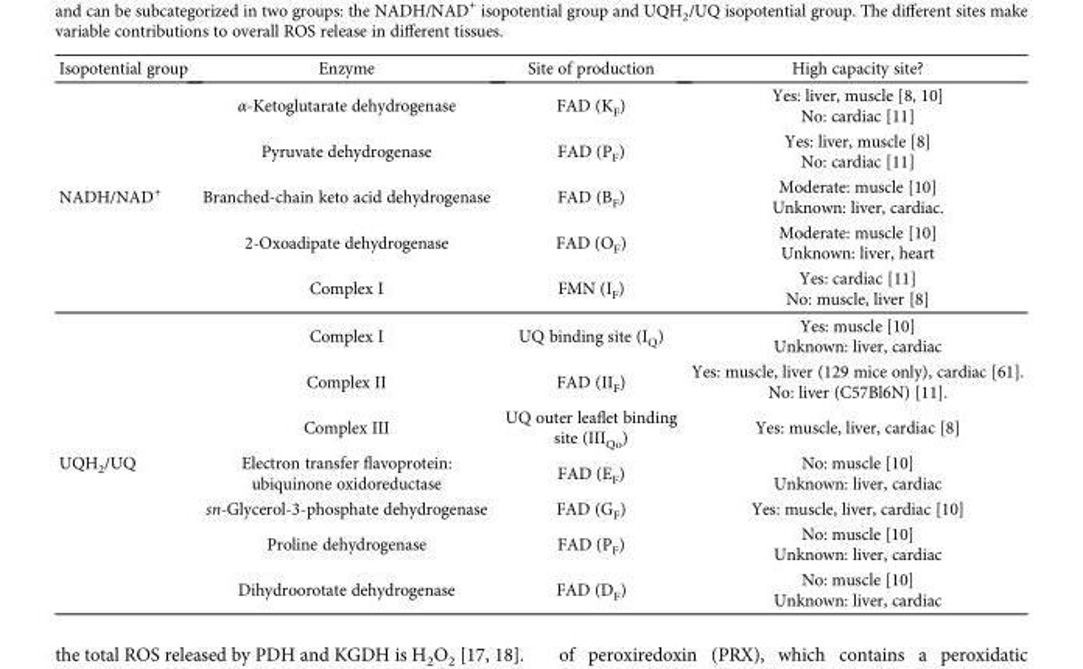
<table><thead><tr><td>Isopotential group</td><td>Enzyme</td><td>Site of production</td><td>High capacity site?</td></tr></thead><tbody><tr><td rowspan="5">NADH/NAD<sup>+</sup></td><td>α-Ketoglutarate dehydrogenase</td><td>FAD (K<sub>F</sub>)</td><td>Yes: liver, muscle [8, 10] No: cardiac [11]</td></tr><tr><td>Pyruvate dehydrogenase</td><td>FAD (P<sub>F</sub>)</td><td>Yes: liver, muscle [8] No: cardiac [11]</td></tr><tr><td>Branched-chain keto acid dehydrogenase</td><td>FAD (B<sub>F</sub>)</td><td>Moderate: muscle [10] Unknown: liver, cardiac.</td></tr><tr><td>2-Oxoadipate dehydrogenase</td><td>FAD (O<sub>F</sub>)</td><td>Moderate: muscle [10] Unknown: liver, heart</td></tr><tr><td>Complex I</td><td>FMN (I<sub>F</sub>)</td><td>Yes: cardiac [11] No: muscle, liver [8]</td></tr><tr><td rowspan="7">UQH<sub>2</sub>/UQ</td><td>Complex I</td><td>UQ binding site (I<sub>Q</sub>)</td><td>Yes: muscle [10] Unknown: liver, cardiac</td></tr><tr><td>Complex II</td><td>FAD (II<sub>F</sub>)</td><td>Yes: muscle, liver (129 mice only), cardiac [61]. No: liver (C57Bl6N) [11].</td></tr><tr><td>Complex III</td><td>UQ outer leaflet binding site (III<sub>Qo</sub>)</td><td>Yes: muscle, liver, cardiac [8]</td></tr><tr><td>Electron transfer flavoprotein: ubiquinone oxidoreductase</td><td>FAD (E<sub>F</sub>)</td><td>No: muscle [10] Unknown: liver, cardiac</td></tr><tr><td>sn-Glycerol-3-phosphate dehydrogenase</td><td>FAD (G<sub>F</sub>)</td><td>Yes: muscle, liver, cardiac [10]</td></tr><tr><td>Proline dehydrogenase</td><td>FAD (P<sub>F</sub>)</td><td>No: muscle [10] Unknown: liver, cardiac</td></tr><tr><td>Dihydroorotate dehydrogenase</td><td>FAD (D<sub>F</sub>)</td><td>No: muscle [10] Unknown: liver, cardiac</td></tr></tbody></table>